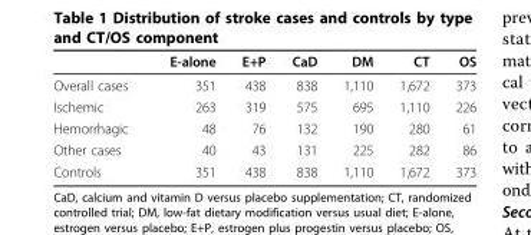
<table><thead><tr><td></td><td>E-alone</td><td>E+P</td><td>CaD</td><td>DM</td><td>CT</td><td>OS</td></tr></thead><tbody><tr><td>Overall cases</td><td>351</td><td>438</td><td>838</td><td>1,110</td><td>1,672</td><td>373</td></tr><tr><td>Ischemic</td><td>263</td><td>319</td><td>575</td><td>695</td><td>1,110</td><td>226</td></tr><tr><td>Hemorrhagic</td><td>48</td><td>76</td><td>132</td><td>190</td><td>280</td><td>61</td></tr><tr><td>Other cases</td><td>40</td><td>43</td><td>131</td><td>225</td><td>282</td><td>86</td></tr><tr><td>Controls</td><td>351</td><td>438</td><td>838</td><td>1,110</td><td>1,672</td><td>373</td></tr></tbody></table>